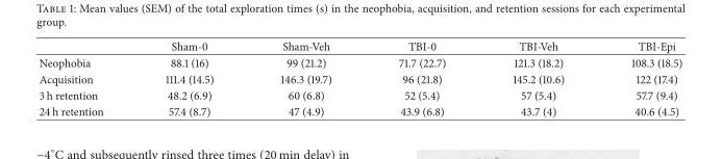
<table><thead><tr><td></td><td>Sham-0</td><td>Sham-Veh</td><td>TBI-0</td><td>TBI-Veh</td><td>TBI-Epi</td></tr></thead><tbody><tr><td>Neophobia</td><td>88.1 (16)</td><td>99 (21.2)</td><td>71.7 (22.7)</td><td>121.3 (18.2)</td><td>108.3 (18.5)</td></tr><tr><td>Acquisition</td><td>111.4 (14.5)</td><td>146.3 (19.7)</td><td>96 (21.8)</td><td>145.2 (10.6)</td><td>122 (17.4)</td></tr><tr><td>3 h retention</td><td>48.2 (6.9)</td><td>60 (6.8)</td><td>52 (5.4)</td><td>57 (5.4)</td><td>57.7 (9.4)</td></tr><tr><td>24 h retention</td><td>57.4 (8.7)</td><td>47 (4.9)</td><td>43.9 (6.8)</td><td>43.7 (4)</td><td>40.6 (4.5)</td></tr></tbody></table>